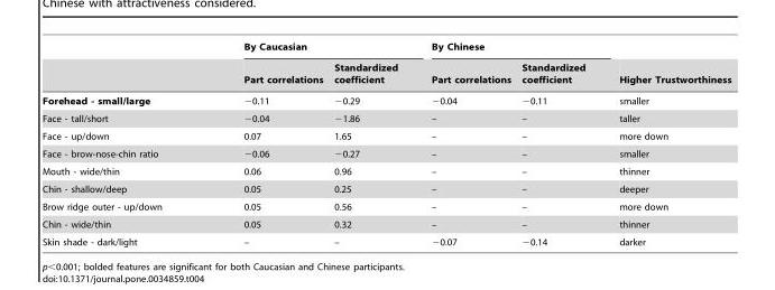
<table><thead><tr><td rowspan="2"></td><td colspan="2">By Caucasian</td><td colspan="2">By Chinese</td><td rowspan="2">Higher Trustworthiness</td></tr><tr><td>Part correlations</td><td>Standardized coefficient</td><td>Part correlations</td><td>Standardized coefficient</td></tr></thead><tbody><tr><td>Forehead - small/large</td><td>−0.11</td><td>−0.29</td><td>−0.04</td><td>−0.11</td><td>smaller</td></tr><tr><td>Face - tall/short</td><td>−0.04</td><td>−1.86</td><td>–</td><td>–</td><td>taller</td></tr><tr><td>Face - up/down</td><td>0.07</td><td>1.65</td><td>–</td><td>–</td><td>more down</td></tr><tr><td>Face - brow-nose-chin ratio</td><td>−0.06</td><td>−0.27</td><td>–</td><td>–</td><td>smaller</td></tr><tr><td>Mouth - wide/thin</td><td>0.06</td><td>0.96</td><td>–</td><td>–</td><td>thinner</td></tr><tr><td>Chin - shallow/deep</td><td>0.05</td><td>0.25</td><td>–</td><td>–</td><td>deeper</td></tr><tr><td>Brow ridge outer - up/down</td><td>0.05</td><td>0.56</td><td>–</td><td>–</td><td>more down</td></tr><tr><td>Chin - wide/thin</td><td>0.05</td><td>0.32</td><td>–</td><td>–</td><td>thinner</td></tr><tr><td>Skin shade - dark/light</td><td>–</td><td>–</td><td>−0.07</td><td>−0.14</td><td>darker</td></tr></tbody></table>